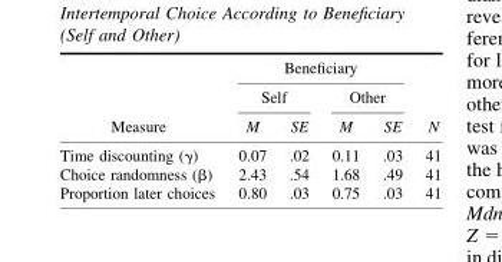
<table><thead><tr><td rowspan="3">Measure</td><td colspan="4">Beneficiary</td><td rowspan="3">N</td></tr><tr><td colspan="2">Self</td><td colspan="2">Other</td></tr><tr><td>M</td><td>SE</td><td>M</td><td>SE</td></tr></thead><tbody><tr><td>Time discounting (γ)</td><td>0.07</td><td>.02</td><td>0.11</td><td>.03</td><td>41</td></tr><tr><td>Choice randomness (β)</td><td>2.43</td><td>.54</td><td>1.68</td><td>.49</td><td>41</td></tr><tr><td>Proportion later choices</td><td>0.80</td><td>.03</td><td>0.75</td><td>.03</td><td>41</td></tr></tbody></table>